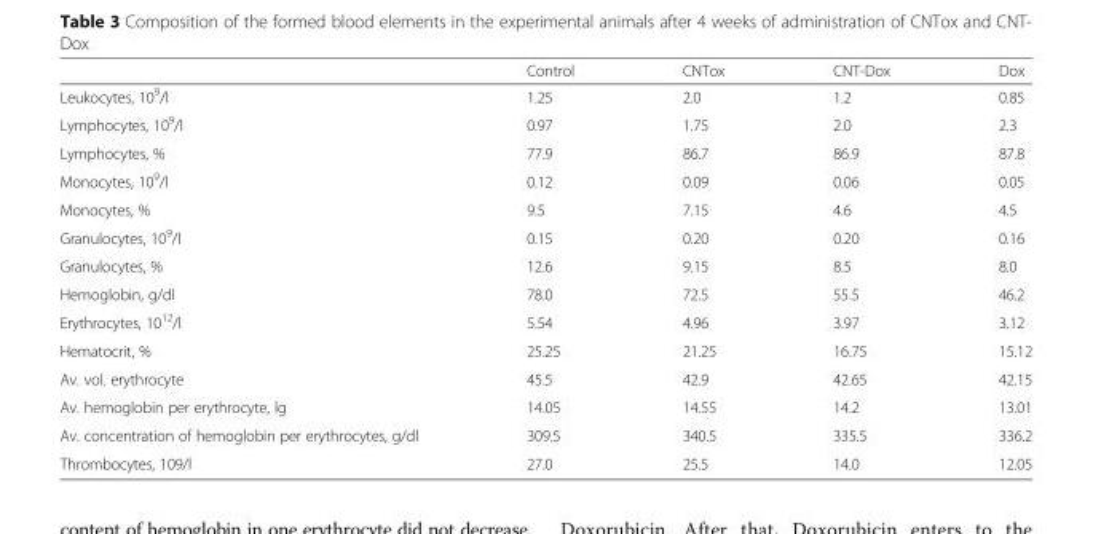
<table><thead><tr><td></td><td>Control</td><td>CNTох</td><td>CNT-Dox</td><td>Dox</td></tr></thead><tbody><tr><td>Leukocytes, 10<sup>9</sup>/l</td><td>1.25</td><td>2.0</td><td>1.2</td><td>0.85</td></tr><tr><td>Lymphocytes, 10<sup>9</sup>/l</td><td>0.97</td><td>1.75</td><td>2.0</td><td>2.3</td></tr><tr><td>Lymphocytes, %</td><td>77.9</td><td>86.7</td><td>86.9</td><td>87.8</td></tr><tr><td>Monocytes, 10<sup>9</sup>/l</td><td>0.12</td><td>0.09</td><td>0.06</td><td>0.05</td></tr><tr><td>Monocytes, %</td><td>9.5</td><td>7.15</td><td>4.6</td><td>4.5</td></tr><tr><td>Granulocytes, 10<sup>9</sup>/l</td><td>0.15</td><td>0.20</td><td>0.20</td><td>0.16</td></tr><tr><td>Granulocytes, %</td><td>12.6</td><td>9.15</td><td>8.5</td><td>8.0</td></tr><tr><td>Hemoglobin, g/dl</td><td>78.0</td><td>72.5</td><td>55.5</td><td>46.2</td></tr><tr><td>Erythrocytes, 10<sup>12</sup>/l</td><td>5.54</td><td>4.96</td><td>3.97</td><td>3.12</td></tr><tr><td>Hematocrit, %</td><td>25.25</td><td>21.25</td><td>16.75</td><td>15.12</td></tr><tr><td>Av. vol. erythrocyte</td><td>45.5</td><td>42.9</td><td>42.65</td><td>42.15</td></tr><tr><td>Av. hemoglobin per erythrocyte, lg</td><td>14.05</td><td>14.55</td><td>14.2</td><td>13.01</td></tr><tr><td>Av. concentration of hemoglobin per erythrocytes, g/dl</td><td>309.5</td><td>340.5</td><td>335.5</td><td>336.2</td></tr><tr><td>Thrombocytes, 109/l</td><td>27.0</td><td>25.5</td><td>14.0</td><td>12.05</td></tr></tbody></table>